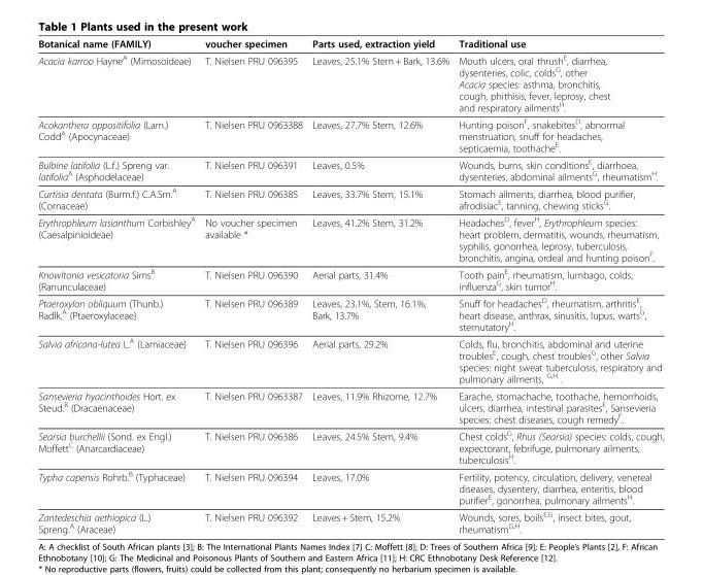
<table><thead><tr><td>Botanical name (FAMILY)</td><td>voucher specimen</td><td>Parts used, extraction yield</td><td>Traditional use</td></tr></thead><tbody><tr><td>Acacia karroo Hayne<sup>A</sup> (Mimosoideae)</td><td>T. Nielsen PRU 096395</td><td>Leaves, 25.1% Stem + Bark, 13.6%</td><td>Mouth ulcers, oral thrush<sup>E</sup>, diarrhea, dysenteries, colic, colds<sup>G</sup>, other Acacia species: asthma, bronchitis, cough, phithisis, fever, leprosy, chest and respiratory ailments<sup>H</sup>.</td></tr><tr><td>Acokanthera oppositifolia (Lam.) Codd<sup>A</sup> (Apocynaceae)</td><td>T. Nielsen PRU 0963388</td><td>Leaves, 27.7% Stem, 12.6%</td><td>Hunting poison<sup>F</sup>, snakebites<sup>D</sup>, abnormal menstruation, snuff for headaches, septicaemia, toothache<sup>E</sup>.</td></tr><tr><td>Bulbine latifolia (L.f.) Spreng var. latifolia<sup>A</sup> (Asphodelaceae)</td><td>T. Nielsen PRU 096391</td><td>Leaves, 0.5%</td><td>Wounds, burns, skin conditions<sup>E</sup>, diarrhoea, dysenteries, abdominal ailments<sup>G</sup>, rheumatism<sup>H</sup>.</td></tr><tr><td>Curtisia dentata (Burm.f.) C.A.Sm.<sup>A</sup> (Cornaceae)</td><td>T. Nielsen PRU 096385</td><td>Leaves, 33.7% Stem, 15.1%</td><td>Stomach ailments, diarrhea, blood purifier, afrodisiac<sup>E</sup>, tanning, chewing sticks<sup>G</sup>.</td></tr><tr><td>Erythrophleum lasianthum Corbishley<sup>A</sup> (Caesalpinioideae)</td><td>No voucher specimen available *</td><td>Leaves, 41.2% Stem, 31.2%</td><td>Headaches<sup>D</sup>, fever<sup>H</sup>, Erythrophleum species: heart problem, dermatitis, wounds, rheumatism, syphilis, gonorrhea, leprosy, tuberculosis, bronchitis, angina, ordeal and hunting poison<sup>F</sup>.</td></tr><tr><td>Knowltonia vesicatoria Sims<sup>B</sup> (Ranunculaceae)</td><td>T. Nielsen PRU 096390</td><td>Aerial parts, 31.4%</td><td>Tooth pain<sup>E</sup>, rheumatism, lumbago, colds, influenza<sup>G</sup>, skin tumor<sup>H</sup>.</td></tr><tr><td>Ptaeroxylon obliquum (Thunb.) Radlk.<sup>A</sup> (Ptaeroxylaceae)</td><td>T. Nielsen PRU 096389</td><td>Leaves, 23.1%, Stem, 16.1%, Bark, 13.7%</td><td>Snuff for headaches<sup>D</sup>, rheumatism, arthritis<sup>E</sup>, heart disease, anthrax, sinusitis, lupus, warts<sup>G</sup>, sternutatory<sup>H</sup>.</td></tr><tr><td>Salvia africana-lutea L.<sup>A</sup> (Lamiaceae)</td><td>T. Nielsen PRU 096396</td><td>Aerial parts, 29.2%</td><td>Colds, flu, bronchitis, abdominal and uterine troubles<sup>E</sup>, cough, chest troubles<sup>G</sup>, other Salvia species: night sweat tuberculosis, respiratory and pulmonary ailments, <sup>G,H</sup> .</td></tr><tr><td>Sansevieria hyacinthoides Hort. ex Steud.<sup>B</sup> (Dracaenaceae)</td><td>T. Nielsen PRU 0963387</td><td>Leaves, 11.9% Rhizome, 12.7%</td><td>Earache, stomachache, toothache, hemorrhoids, ulcers, diarrhea, intestinal parasites<sup>E</sup>, Sansevieria species: chest diseases, cough remedy<sup>F</sup>.</td></tr><tr><td>Searsia burchellii (Sond. ex Engl.) Moffett<sup>C</sup> (Anarcardiaceae)</td><td>T. Nielsen PRU 096386</td><td>Leaves, 24.5% Stem, 9.4%</td><td>Chest colds<sup>G</sup>, Rhus (Searsia) species: colds, cough, expectorant, febrifuge, pulmonary ailments, tuberculosis<sup>H</sup>.</td></tr><tr><td>Typha capensis Rohrb.<sup>B</sup> (Typhaceae)</td><td>T. Nielsen PRU 096394</td><td>Leaves, 17.0%</td><td>Fertility, potency, circulation, delivery, venereal diseases, dysentery, diarrhea, enteritis, blood purifier<sup>E</sup>, gonorrhea, pulmonary ailments<sup>H</sup>.</td></tr><tr><td>Zantedeschia aethiopica (L.) Spreng.<sup>A</sup> (Araceae)</td><td>T. Nielsen PRU 096392</td><td>Leaves + Stem, 15.2%</td><td>Wounds, sores, boils<sup>E,G</sup>, insect bites, gout, rheumatism<sup>G,H</sup>.</td></tr></tbody></table>